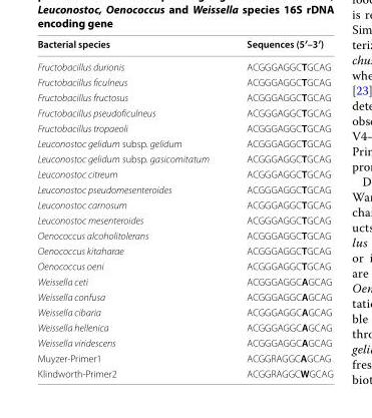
<table><thead><tr><td>Bacterial species</td><td>Sequences (5′–3′)</td></tr></thead><tbody><tr><td>Fructobacillus durionis</td><td>ACG GGA GGC TGCAG</td></tr><tr><td>Fructobacillus ficulneus</td><td>ACG GGA GGC TGCAG</td></tr><tr><td>Fructobacillus fructosus</td><td>ACG GGA GGC TGCAG</td></tr><tr><td>Fructobacillus pseudoficulneus</td><td>ACG GGA GGC TGCAG</td></tr><tr><td>Fructobacillus tropaeoli</td><td>ACG GGA GGC TGCAG</td></tr><tr><td>Leuconostoc gelidum subsp. gelidum</td><td>ACG GGA GGC TGCAG</td></tr><tr><td>Leuconostoc gelidum subsp. gasicomitatum</td><td>ACG GGA GGC TGCAG</td></tr><tr><td>Leuconostoc citreum</td><td>ACG GGA GGC TGCAG</td></tr><tr><td>Leuconostoc pseudomesenteroides</td><td>ACG GGA GGC TGCAG</td></tr><tr><td>Leuconostoc carnosum</td><td>ACG GGA GGC TGCAG</td></tr><tr><td>Leuconostoc mesenteroides</td><td>ACG GGA GGC TGCAG</td></tr><tr><td>Oenococcus alcoholitolerans</td><td>ACG GGA GGC TGCAG</td></tr><tr><td>Oenococcus kitaharae</td><td>ACG GGA GGC TGCAG</td></tr><tr><td>Oenococcus oeni</td><td>ACG GGA GGC TGCAG</td></tr><tr><td>Weissella ceti</td><td>ACG GGA GGC AGCAG</td></tr><tr><td>Weissella confusa</td><td>ACG GGA GGC AGCAG</td></tr><tr><td>Weissella cibaria</td><td>ACG GGA GGC AGCAG</td></tr><tr><td>Weissella hellenica</td><td>ACG GGA GGC AGCAG</td></tr><tr><td>Weissella viridescens</td><td>ACG GGA GGC AGCAG</td></tr><tr><td>Muyzer‑Primer1</td><td>ACG GRA GGC AGCAG</td></tr><tr><td>Klindworth‑Primer2</td><td>ACG GRA GGC WGCAG</td></tr></tbody></table>